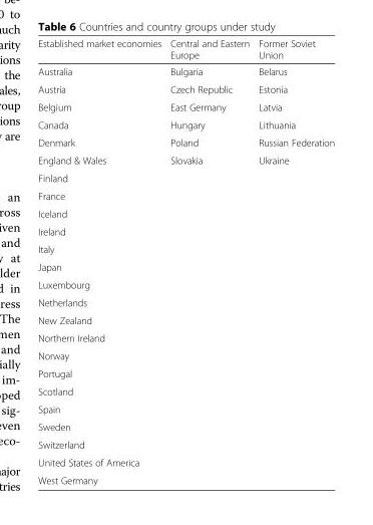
<table><thead><tr><td>Established market economies</td><td>Central and Eastern Europe</td><td>Former Soviet Union</td></tr></thead><tbody><tr><td>Australia</td><td>Bulgaria</td><td>Belarus</td></tr><tr><td>Austria</td><td>Czech Republic</td><td>Estonia</td></tr><tr><td>Belgium</td><td>East Germany</td><td>Latvia</td></tr><tr><td>Canada</td><td>Hungary</td><td>Lithuania</td></tr><tr><td>Denmark</td><td>Poland</td><td>Russian Federation</td></tr><tr><td>England &amp; Wales</td><td>Slovakia</td><td>Ukraine</td></tr><tr><td colspan="3">Finland</td></tr><tr><td colspan="3">France</td></tr><tr><td colspan="3">Iceland</td></tr><tr><td colspan="3">Ireland</td></tr><tr><td colspan="3">Italy</td></tr><tr><td colspan="3">Japan</td></tr><tr><td colspan="3">Luxembourg</td></tr><tr><td colspan="3">Netherlands</td></tr><tr><td colspan="3">New Zealand</td></tr><tr><td colspan="3">Northern Ireland</td></tr><tr><td colspan="3">Norway</td></tr><tr><td colspan="3">Portugal</td></tr><tr><td colspan="3">Scotland</td></tr><tr><td colspan="3">Spain</td></tr><tr><td colspan="3">Sweden</td></tr><tr><td colspan="3">Switzerland</td></tr><tr><td colspan="3">United States of America</td></tr><tr><td>West Germany</td><td></td><td></td></tr></tbody></table>